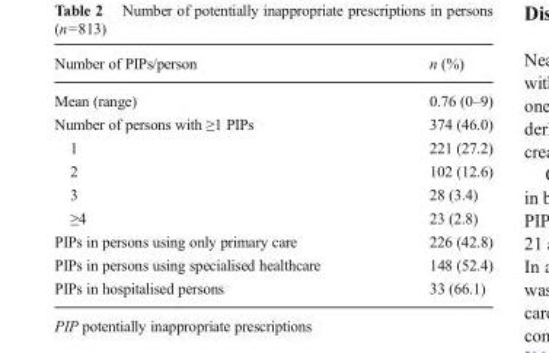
<table><thead><tr><td>Number of PIPs/person</td><td>n (%)</td></tr></thead><tbody><tr><td>Mean (range)</td><td>0.76 (0–9)</td></tr><tr><td>Number of persons with ≥1 PIPs</td><td>374 (46.0)</td></tr><tr><td>1</td><td>221 (27.2)</td></tr><tr><td>2</td><td>102 (12.6)</td></tr><tr><td>3</td><td>28 (3.4)</td></tr><tr><td>≥4</td><td>23 (2.8)</td></tr><tr><td>PIPs in persons using only primary care</td><td>226 (42.8)</td></tr><tr><td>PIPs in persons using specialised healthcare</td><td>148 (52.4)</td></tr><tr><td>PIPs in hospitalised persons</td><td>33 (66.1)</td></tr></tbody></table>